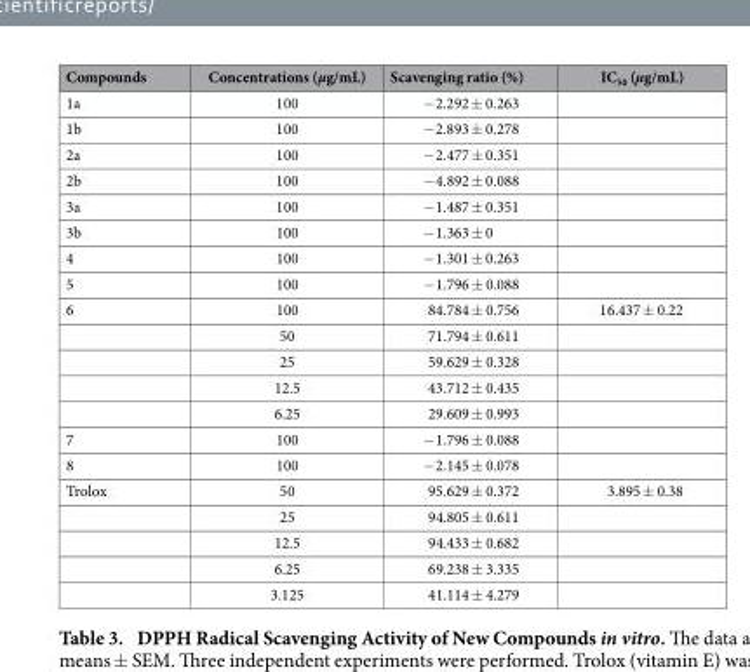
<table><thead><tr><td>Compounds</td><td>Concentrations (μg/mL)</td><td>Scavenging ratio (%)</td><td>IC<sub>50</sub> (μg/mL)</td></tr></thead><tbody><tr><td>1a</td><td>100</td><td>− 2.292 ± 0.263</td><td></td></tr><tr><td>1b</td><td>100</td><td>− 2.893 ± 0.278</td><td></td></tr><tr><td>2a</td><td>100</td><td>− 2.477 ± 0.351</td><td></td></tr><tr><td>2b</td><td>100</td><td>− 4.892 ± 0.088</td><td></td></tr><tr><td>3a</td><td>100</td><td>− 1.487 ± 0.351</td><td></td></tr><tr><td>3b</td><td>100</td><td>− 1.363 ± 0</td><td></td></tr><tr><td>4</td><td>100</td><td>− 1.301 ± 0.263</td><td></td></tr><tr><td>5</td><td>100</td><td>− 1.796 ± 0.088</td><td></td></tr><tr><td rowspan="5">6</td><td>100</td><td>84.784 ± 0.756</td><td>16.437 ± 0.22</td></tr><tr><td>50</td><td>71.794 ± 0.611</td><td></td></tr><tr><td>25</td><td>59.629 ± 0.328</td><td></td></tr><tr><td>12.5</td><td>43.712 ± 0.435</td><td></td></tr><tr><td>6.25</td><td>29.609 ± 0.993</td><td></td></tr><tr><td>7</td><td>100</td><td>− 1.796 ± 0.088</td><td></td></tr><tr><td>8</td><td>100</td><td>− 2.145 ± 0.078</td><td></td></tr><tr><td rowspan="5">Trolox</td><td>50</td><td>95.629 ± 0.372</td><td>3.895 ± 0.38</td></tr><tr><td>25</td><td>94.805 ± 0.611</td><td></td></tr><tr><td>12.5</td><td>94.433 ± 0.682</td><td></td></tr><tr><td>6.25</td><td>69.238 ± 3.335</td><td></td></tr><tr><td>3.125</td><td>41.114 ± 4.279</td><td></td></tr></tbody></table>